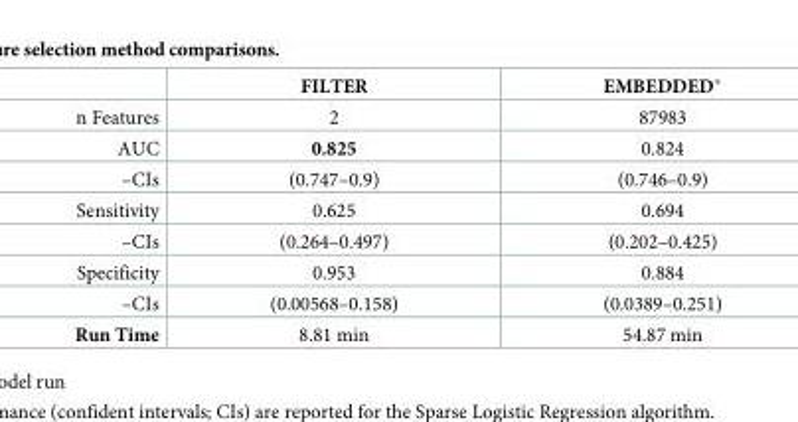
<table><thead><tr><td></td><td>FILTER</td><td>EMBEDDED*</td></tr></thead><tbody><tr><td>n Features</td><td>2</td><td>87983</td></tr><tr><td>AUC</td><td>0.825</td><td>0.824</td></tr><tr><td>–CIs</td><td>(0.747–0.9)</td><td>(0.746–0.9)</td></tr><tr><td>Sensitivity</td><td>0.625</td><td>0.694</td></tr><tr><td>–CIs</td><td>(0.264–0.497)</td><td>(0.202–0.425)</td></tr><tr><td>Specificity</td><td>0.953</td><td>0.884</td></tr><tr><td>–CIs</td><td>(0.00568–0.158)</td><td>(0.0389–0.251)</td></tr><tr><td>Run Time</td><td>8.81 min</td><td>54.87 min</td></tr></tbody></table>